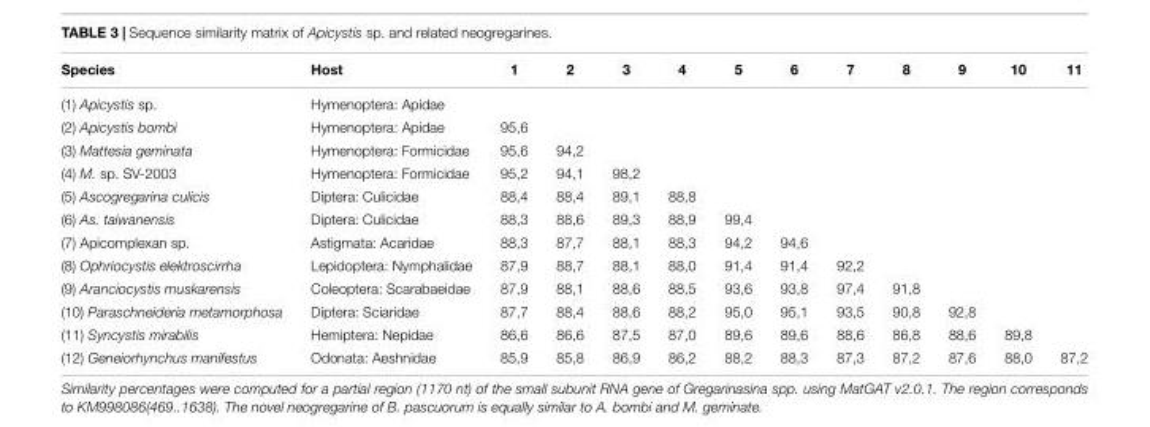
<table><thead><tr><td>Species</td><td>Host</td><td>1</td><td>2</td><td>3</td><td>4</td><td>5</td><td>6</td><td>7</td><td>8</td><td>9</td><td>10</td><td>11</td></tr></thead><tbody><tr><td>(1) Apicystis sp.</td><td>Hymenoptera: Apidae</td><td></td><td></td><td></td><td></td><td></td><td></td><td></td><td></td><td></td><td></td><td></td></tr><tr><td>(2) Apicystis bombi</td><td>Hymenoptera: Apidae</td><td>95,6</td><td></td><td></td><td></td><td></td><td></td><td></td><td></td><td></td><td></td><td></td></tr><tr><td>(3) Mattesia geminata</td><td>Hymenoptera: Formicidae</td><td>95,6</td><td>94,2</td><td></td><td></td><td></td><td></td><td></td><td></td><td></td><td></td><td></td></tr><tr><td>(4) M. sp. SV-2003</td><td>Hymenoptera: Formicidae</td><td>95,2</td><td>94,1</td><td>98,2</td><td></td><td></td><td></td><td></td><td></td><td></td><td></td><td></td></tr><tr><td>(5) Ascogregarina culicis</td><td>Diptera: Culicidae</td><td>88,4</td><td>88,4</td><td>89,1</td><td>88,8</td><td></td><td></td><td></td><td></td><td></td><td></td><td></td></tr><tr><td>(6) As. taiwanensis</td><td>Diptera: Culicidae</td><td>88,3</td><td>88,6</td><td>89,3</td><td>88,9</td><td>99,4</td><td></td><td></td><td></td><td></td><td></td><td></td></tr><tr><td>(7) Apicomplexan sp.</td><td>Astigmata: Acaridae</td><td>88,3</td><td>87,7</td><td>88,1</td><td>88,3</td><td>94,2</td><td>94,6</td><td></td><td></td><td></td><td></td><td></td></tr><tr><td>(8) Ophriocystis elektroscirrha</td><td>Lepidoptera: Nymphalidae</td><td>87,9</td><td>88,7</td><td>88,1</td><td>88,0</td><td>91,4</td><td>91,4</td><td>92,2</td><td></td><td></td><td></td><td></td></tr><tr><td>(9) Aranciocystis muskarensis</td><td>Coleoptera: Scarabaeidae</td><td>87,9</td><td>88,1</td><td>88,6</td><td>88,5</td><td>93,6</td><td>93,8</td><td>97,4</td><td>91,8</td><td></td><td></td><td></td></tr><tr><td>(10) Paraschneideria metamorphosa</td><td>Diptera: Sciaridae</td><td>87,7</td><td>88,4</td><td>88,6</td><td>88,2</td><td>95,0</td><td>95,1</td><td>93,5</td><td>90,8</td><td>92,8</td><td></td><td></td></tr><tr><td>(11) Syncystis mirabilis</td><td>Hemiptera: Nepidae</td><td>86,6</td><td>86,6</td><td>87,5</td><td>87,0</td><td>89,6</td><td>89,6</td><td>88,6</td><td>86,8</td><td>88,6</td><td>89,8</td><td></td></tr><tr><td>(12) Geneiorhynchus manifestus</td><td>Odonata: Aeshnidae</td><td>85,9</td><td>85,8</td><td>86,9</td><td>86,2</td><td>88,2</td><td>88,3</td><td>87,3</td><td>87,2</td><td>87,6</td><td>88,0</td><td>87,2</td></tr></tbody></table>